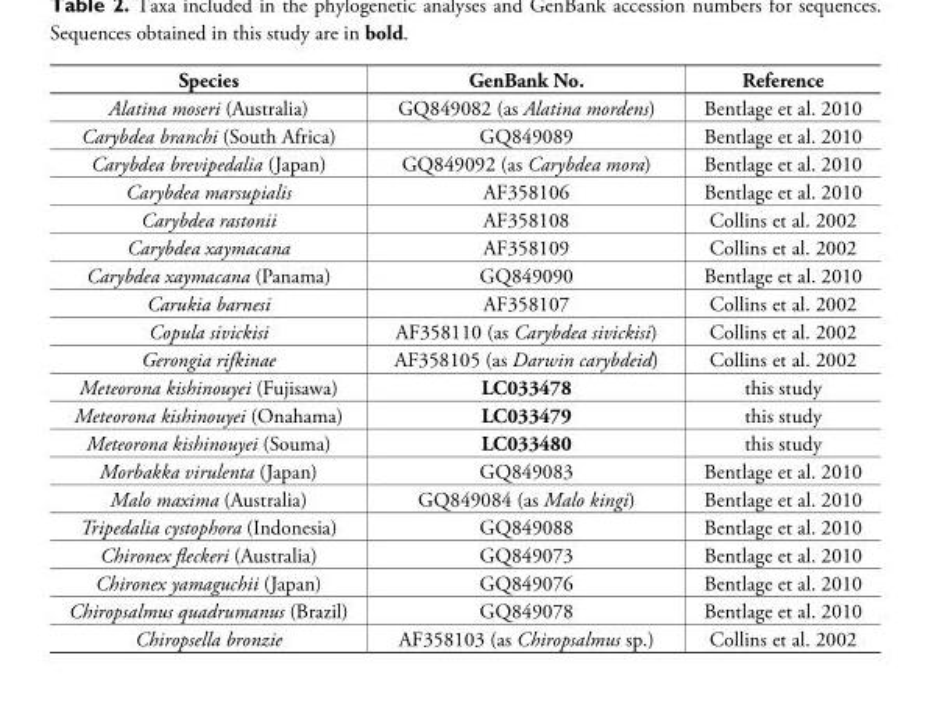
<table><thead><tr><td>Species</td><td>GenBank No.</td><td>Reference</td></tr></thead><tbody><tr><td>Alatina moseri (Australia)</td><td>GQ849082 (as Alatina mordens)</td><td>Bentlage et al. 2010</td></tr><tr><td>Carybdea branchi (South Africa)</td><td>GQ849089</td><td>Bentlage et al. 2010</td></tr><tr><td>Carybdea brevipedalia (Japan)</td><td>GQ849092 (as Carybdea mora)</td><td>Bentlage et al. 2010</td></tr><tr><td>Carybdea marsupialis</td><td>AF358106</td><td>Bentlage et al. 2010</td></tr><tr><td>Carybdea rastonii</td><td>AF358108</td><td>Collins et al. 2002</td></tr><tr><td>Carybdea xaymacana</td><td>AF358109</td><td>Collins et al. 2002</td></tr><tr><td>Carybdea xaymacana (Panama)</td><td>GQ849090</td><td>Bentlage et al. 2010</td></tr><tr><td>Carukia barnesi</td><td>AF358107</td><td>Collins et al. 2002</td></tr><tr><td>Copula sivickisi</td><td>AF358110 (as Carybdea sivickisi)</td><td>Collins et al. 2002</td></tr><tr><td>Gerongia rifkinae</td><td>AF358105 (as Darwin carybdeid)</td><td>Collins et al. 2002</td></tr><tr><td>Meteorona kishinouyei (Fujisawa)</td><td>LC033478</td><td>this study</td></tr><tr><td>Meteorona kishinouyei (Onahama)</td><td>LC033479</td><td>this study</td></tr><tr><td>Meteorona kishinouyei (Souma)</td><td>LC033480</td><td>this study</td></tr><tr><td>Morbakka virulenta (Japan)</td><td>GQ849083</td><td>Bentlage et al. 2010</td></tr><tr><td>Malo maxima (Australia)</td><td>GQ849084 (as Malo kingi)</td><td>Bentlage et al. 2010</td></tr><tr><td>Tripedalia cystophora (Indonesia)</td><td>GQ849088</td><td>Bentlage et al. 2010</td></tr><tr><td>Chironex fleckeri (Australia)</td><td>GQ849073</td><td>Bentlage et al. 2010</td></tr><tr><td>Chironex yamaguchii (Japan)</td><td>GQ849076</td><td>Bentlage et al. 2010</td></tr><tr><td>Chiropsalmus quadrumanus (Brazil)</td><td>GQ849078</td><td>Bentlage et al. 2010</td></tr><tr><td>Chiropsella bronzie</td><td>AF358103 (as Chiropsalmus sp.)</td><td>Collins et al. 2002</td></tr></tbody></table>